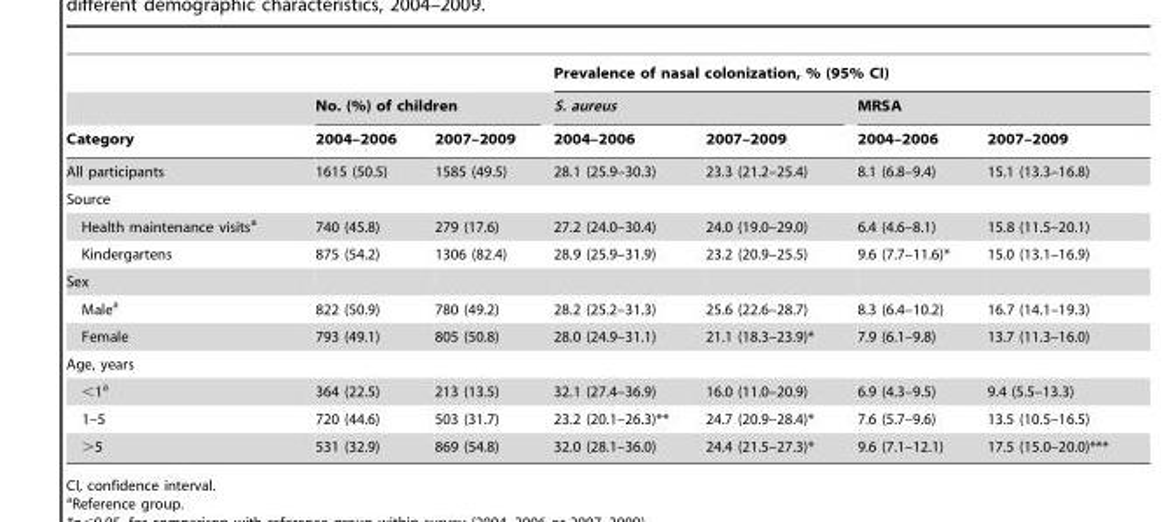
<table><thead><tr><td rowspan="3">Category</td><td></td><td></td><td colspan="4">Prevalence of nasal colonization, % (95% CI)</td></tr><tr><td colspan="2">No. (%) of children</td><td colspan="2">S. aureus</td><td colspan="2">MRSA</td></tr><tr><td>2004–2006</td><td>2007–2009</td><td>2004–2006</td><td>2007–2009</td><td>2004–2006</td><td>2007–2009</td></tr></thead><tbody><tr><td>All participants</td><td>1615 (50.5)</td><td>1585 (49.5)</td><td>28.1 (25.9–30.3)</td><td>23.3 (21.2–25.4)</td><td>8.1 (6.8–9.4)</td><td>15.1 (13.3–16.8)</td></tr><tr><td colspan="7">Source</td></tr><tr><td>Health maintenance visits<sup>a</sup></td><td>740 (45.8)</td><td>279 (17.6)</td><td>27.2 (24.0–30.4)</td><td>24.0 (19.0–29.0)</td><td>6.4 (4.6–8.1)</td><td>15.8 (11.5–20.1)</td></tr><tr><td>Kindergartens</td><td>875 (54.2)</td><td>1306 (82.4)</td><td>28.9 (25.9–31.9)</td><td>23.2 (20.9–25.5)</td><td>9.6 (7.7–11.6)*</td><td>15.0 (13.1–16.9)</td></tr><tr><td colspan="7">Sex</td></tr><tr><td>Male<sup>a</sup></td><td>822 (50.9)</td><td>780 (49.2)</td><td>28.2 (25.2–31.3)</td><td>25.6 (22.6–28.7)</td><td>8.3 (6.4–10.2)</td><td>16.7 (14.1–19.3)</td></tr><tr><td>Female</td><td>793 (49.1)</td><td>805 (50.8)</td><td>28.0 (24.9–31.1)</td><td>21.1 (18.3–23.9)*</td><td>7.9 (6.1–9.8)</td><td>13.7 (11.3–16.0)</td></tr><tr><td colspan="7">Age, years</td></tr><tr><td>&lt;1<sup>a</sup></td><td>364 (22.5)</td><td>213 (13.5)</td><td>32.1 (27.4–36.9)</td><td>16.0 (11.0–20.9)</td><td>6.9 (4.3–9.5)</td><td>9.4 (5.5–13.3)</td></tr><tr><td>1–5</td><td>720 (44.6)</td><td>503 (31.7)</td><td>23.2 (20.1–26.3)**</td><td>24.7 (20.9–28.4)*</td><td>7.6 (5.7–9.6)</td><td>13.5 (10.5–16.5)</td></tr><tr><td>&gt;5</td><td>531 (32.9)</td><td>869 (54.8)</td><td>32.0 (28.1–36.0)</td><td>24.4 (21.5–27.3)*</td><td>9.6 (7.1–12.1)</td><td>17.5 (15.0–20.0)***</td></tr></tbody></table>